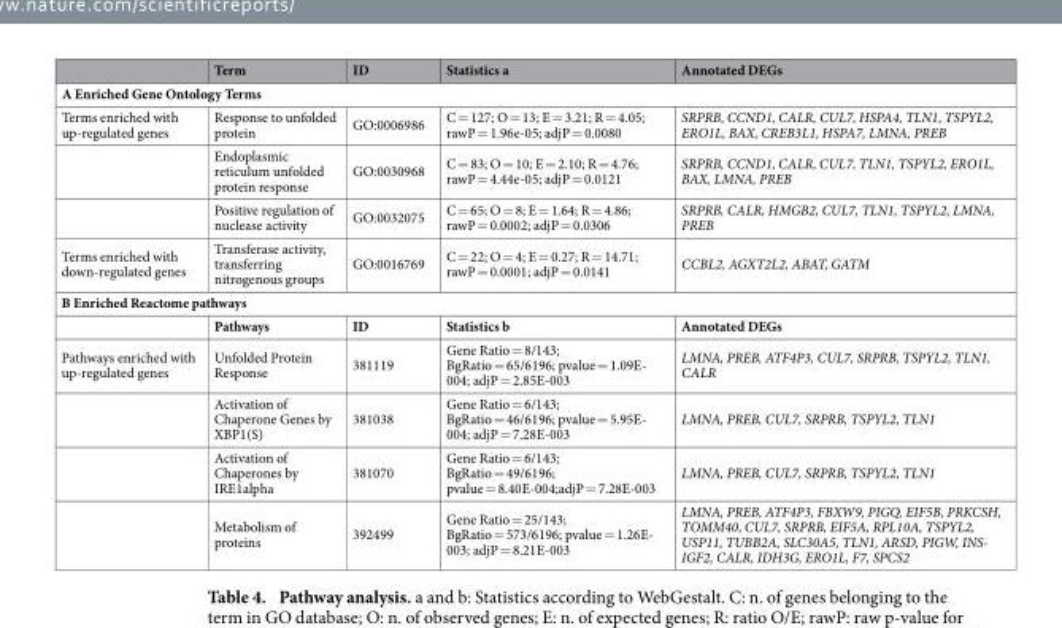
<table><thead><tr><td></td><td>Term</td><td>ID</td><td>Statistics a</td><td>Annotated DEGs</td></tr></thead><tbody><tr><td colspan="5">A Enriched Gene Ontology Terms</td></tr><tr><td rowspan="3">Terms enriched with up-regulated genes</td><td>Response to unfolded protein</td><td>GO:0006986</td><td>C = 127; O = 13; E = 3.21; R = 4.05; rawP = 1.96e-05; adjP = 0.0080</td><td>SRPRB, CCND1, CALR, CUL7, HSPA4, TLN1, TSPYL2, ERO1L, BAX, CREB3L1, HSPA7, LMNA, PREB</td></tr><tr><td>Endoplasmic reticulum unfolded protein response</td><td>GO:0030968</td><td>C = 83; O = 10; E = 2.10; R = 4.76; rawP = 4.44e-05; adjP = 0.0121</td><td>SRPRB, CCND1, CALR, CUL7, TLN1, TSPYL2, ERO1L, BAX, LMNA, PREB</td></tr><tr><td>Positive regulation of nuclease activity</td><td>GO:0032075</td><td>C = 65; O = 8; E = 1.64; R = 4.86; rawP = 0.0002; adjP = 0.0306</td><td>SRPRB, CALR, HMGB2, CUL7, TLN1, TSPYL2, LMNA, PREB</td></tr><tr><td>Terms enriched with down-regulated genes</td><td>Transferase activity, transferring nitrogenous groups</td><td>GO:0016769</td><td>C = 22; O = 4; E = 0.27; R = 14.71; rawP = 0.0001; adjP = 0.0141</td><td>CCBL2, AGXT2L2, ABAT, GATM</td></tr><tr><td colspan="5">B Enriched Reactome pathways</td></tr><tr><td></td><td>Pathways</td><td>ID</td><td>Statistics b</td><td>Annotated DEGs</td></tr><tr><td rowspan="4">Pathways enriched with up-regulated genes</td><td>Unfolded Protein Response</td><td>381119</td><td>Gene Ratio = 8/143; BgRatio = 65/6196; pvalue = 1.09E- 004; adjP = 2.85E-003</td><td>LMNA, PREB, ATF4P3, CUL7, SRPRB, TSPYL2, TLN1, CALR</td></tr><tr><td>Activation of Chaperone Genes by XBP1(S)</td><td>381038</td><td>Gene Ratio = 6/143; BgRatio = 46/6196; pvalue = 5.95E- 004; adjP = 7.28E-003</td><td>LMNA, PREB, CUL7, SRPRB, TSPYL2, TLN1</td></tr><tr><td>Activation of Chaperones by IRE1alpha</td><td>381070</td><td>Gene Ratio = 6/143; BgRatio = 49/6196; pvalue = 8.40E-004;adjP = 7.28E-003</td><td>LMNA, PREB, CUL7, SRPRB, TSPYL2, TLN1</td></tr><tr><td>Metabolism of proteins</td><td>392499</td><td>Gene Ratio = 25/143; BgRatio = 573/6196; pvalue = 1.26E- 003; adjP = 8.21E-003</td><td>LMNA, PREB, ATF4P3, FBXW9, PIGQ, EIF5B, PRKCSH, TOMM40, CUL7, SRPRB, EIF5A, RPL10A, TSPYL2, USP11, TUBB2A, SLC30A5, TLN1, ARSD, PIGW, INS- IGF2, CALR, IDH3G, ERO1L, F7, SPCS2</td></tr></tbody></table>